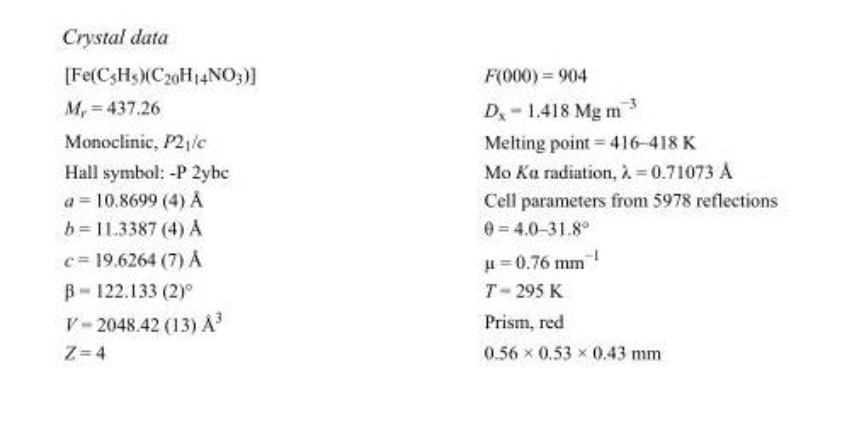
<table><tbody><tr><td>[Fe(C<sub>5</sub>H<sub>5</sub>)(C<sub>20</sub>H<sub>14</sub>NO<sub>3</sub>)]</td><td>F(000) = 904</td></tr><tr><td>M<sub>r</sub> = 437.26</td><td>D<sub>x</sub> = 1.418 Mg m<sup>−3</sup></td></tr><tr><td>Monoclinic, P2<sub>1</sub>/c</td><td>Melting point = 416–418 K</td></tr><tr><td>Hall symbol: -P 2ybc</td><td>Mo Kα radiation, λ = 0.71073 Å</td></tr><tr><td>a = 10.8699 (4) Å</td><td>Cell parameters from 5978 reflections</td></tr><tr><td>b = 11.3387 (4) Å</td><td>θ = 4.0–31.8°</td></tr><tr><td>c = 19.6264 (7) Å</td><td>µ = 0.76 mm<sup>−1</sup></td></tr><tr><td>β = 122.133 (2)°</td><td>T = 295 K</td></tr><tr><td>V = 2048.42 (13) Å<sup>3</sup></td><td>Prism, red</td></tr><tr><td>Z = 4</td><td>0.56 × 0.53 × 0.43 mm</td></tr></tbody></table>